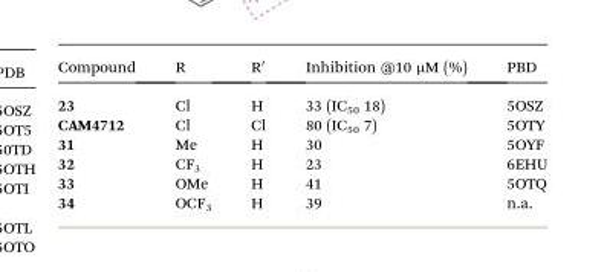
<table><thead><tr><td>Compound</td><td>R</td><td>R′</td><td>Inhibition @10 μM (%)</td><td>PBD</td></tr></thead><tbody><tr><td>23</td><td>Cl</td><td>H</td><td>33 (IC<sub>50</sub> 18)</td><td>5OSZ</td></tr><tr><td>CAM4712</td><td>Cl</td><td>Cl</td><td>80 (IC<sub>50</sub> 7)</td><td>5OTY</td></tr><tr><td>31</td><td>Me</td><td>H</td><td>30</td><td>5OYF</td></tr><tr><td>32</td><td>CF<sub>3</sub></td><td>H</td><td>23</td><td>6EHU</td></tr><tr><td>33</td><td>OMe</td><td>H</td><td>41</td><td>5OTQ</td></tr><tr><td>34</td><td>OCF<sub>3</sub></td><td>H</td><td>39</td><td>n.a.</td></tr></tbody></table>